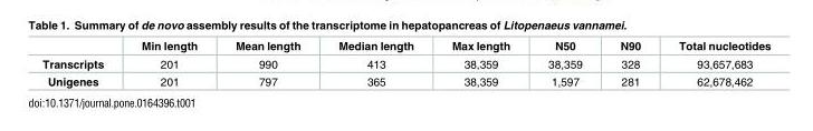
<table><thead><tr><td></td><td>Min length</td><td>Mean length</td><td>Median length</td><td>Max length</td><td>N50</td><td>N90</td><td>Total nucleotides</td></tr></thead><tbody><tr><td>Transcripts</td><td>201</td><td>990</td><td>413</td><td>38,359</td><td>38,359</td><td>328</td><td>93,657,683</td></tr><tr><td>Unigenes</td><td>201</td><td>797</td><td>365</td><td>38,359</td><td>1,597</td><td>281</td><td>62,678,462</td></tr></tbody></table>